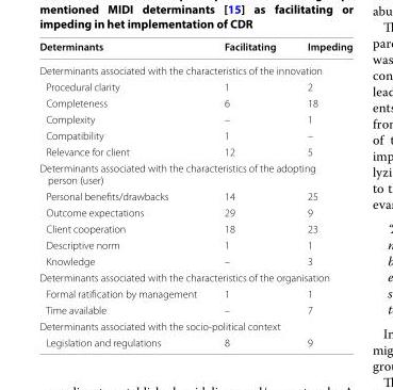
<table><thead><tr><td>Determinants</td><td>Facilitating</td><td>Impeding</td></tr></thead><tbody><tr><td colspan="3">Determinants associated with the characteristics of the innovation</td></tr><tr><td>Procedural clarity</td><td>1</td><td>2</td></tr><tr><td>Completeness</td><td>6</td><td>18</td></tr><tr><td>Complexity</td><td>–</td><td>1</td></tr><tr><td>Compatibility</td><td>1</td><td>–</td></tr><tr><td>Relevance for client</td><td>12</td><td>5</td></tr><tr><td colspan="3">Determinants associated with the characteristics of the adopting person (user)</td></tr><tr><td>Personal benefits/drawbacks</td><td>14</td><td>25</td></tr><tr><td>Outcome expectations</td><td>29</td><td>9</td></tr><tr><td>Client cooperation</td><td>18</td><td>23</td></tr><tr><td>Descriptive norm</td><td>1</td><td>1</td></tr><tr><td>Knowledge</td><td>–</td><td>3</td></tr><tr><td colspan="3">Determinants associated with the characteristics of the organisation</td></tr><tr><td>Formal ratification by management</td><td>1</td><td>1</td></tr><tr><td>Time available</td><td>–</td><td>7</td></tr><tr><td colspan="3">Determinants associated with the socio‑political context</td></tr><tr><td>Legislation and regulations</td><td>8</td><td>9</td></tr></tbody></table>